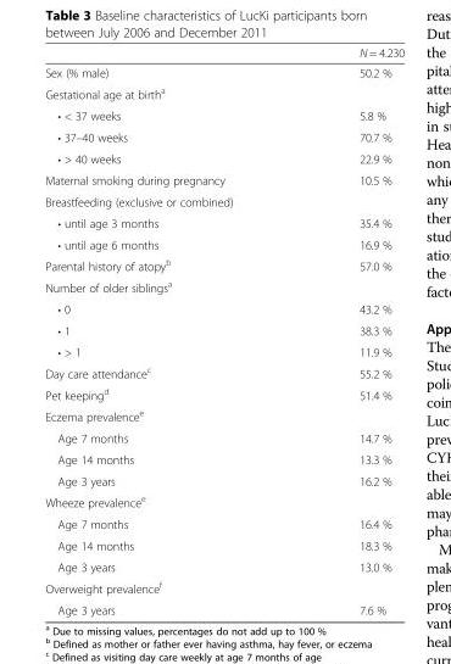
<table><thead><tr><td></td><td>N = 4.230</td></tr></thead><tbody><tr><td>Sex (% male)</td><td>50.2 %</td></tr><tr><td colspan="2">Gestational age at birth<sup>a</sup></td></tr><tr><td>• &lt; 37 weeks</td><td>5.8 %</td></tr><tr><td>• 37–40 weeks</td><td>70.7 %</td></tr><tr><td>• &gt; 40 weeks</td><td>22.9 %</td></tr><tr><td>Maternal smoking during pregnancy</td><td>10.5 %</td></tr><tr><td colspan="2">Breastfeeding (exclusive or combined)</td></tr><tr><td>• until age 3 months</td><td>35.4 %</td></tr><tr><td>• until age 6 months</td><td>16.9 %</td></tr><tr><td>Parental history of atopy<sup>b</sup></td><td>57.0 %</td></tr><tr><td colspan="2">Number of older siblings<sup>a</sup></td></tr><tr><td>• 0</td><td>43.2 %</td></tr><tr><td>• 1</td><td>38.3 %</td></tr><tr><td>• &gt; 1</td><td>11.9 %</td></tr><tr><td>Day care attendance<sup>c</sup></td><td>55.2 %</td></tr><tr><td>Pet keeping<sup>d</sup></td><td>51.4 %</td></tr><tr><td colspan="2">Eczema prevalence<sup>e</sup></td></tr><tr><td>Age 7 months</td><td>14.7 %</td></tr><tr><td>Age 14 months</td><td>13.3 %</td></tr><tr><td>Age 3 years</td><td>16.2 %</td></tr><tr><td colspan="2">Wheeze prevalence<sup>e</sup></td></tr><tr><td>Age 7 months</td><td>16.4 %</td></tr><tr><td>Age 14 months</td><td>18.3 %</td></tr><tr><td>Age 3 years</td><td>13.0 %</td></tr><tr><td colspan="2">Overweight prevalence<sup>f</sup></td></tr><tr><td>Age 3 years</td><td>7.6 %</td></tr></tbody></table>